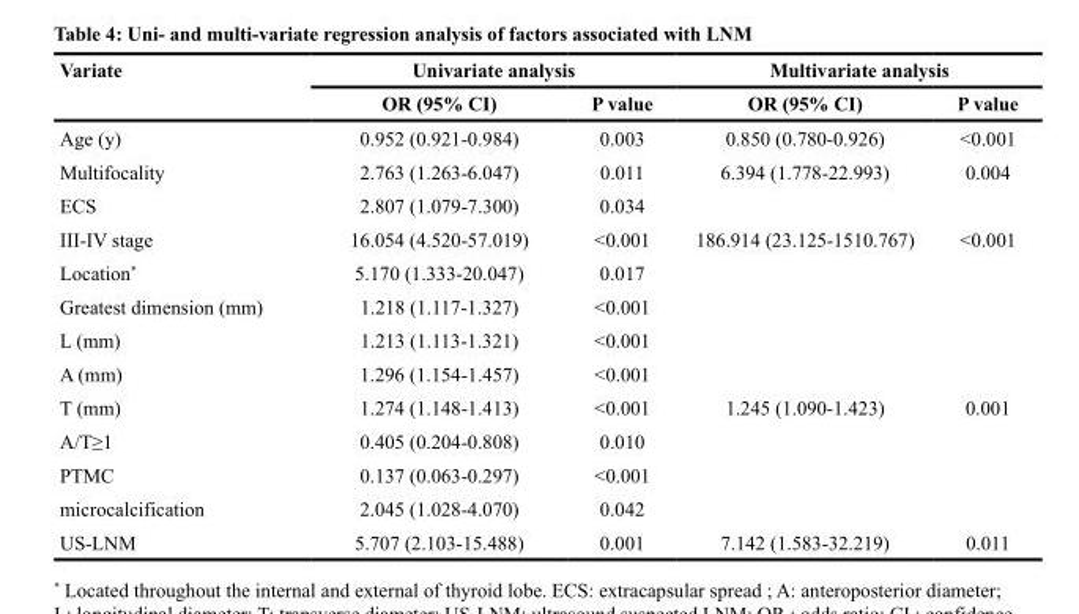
<table><thead><tr><td rowspan="2">Variate</td><td colspan="2">Univariate analysis</td><td colspan="2">Multivariate analysis</td></tr><tr><td>OR (95% CI)</td><td>P value</td><td>OR (95% CI)</td><td>P value</td></tr></thead><tbody><tr><td>Age (y)</td><td>0.952 (0.921-0.984)</td><td>0.003</td><td>0.850 (0.780-0.926)</td><td>&lt;0.001</td></tr><tr><td>Multifocality</td><td>2.763 (1.263-6.047)</td><td>0.011</td><td>6.394 (1.778-22.993)</td><td>0.004</td></tr><tr><td>ECS</td><td>2.807 (1.079-7.300)</td><td>0.034</td><td></td><td></td></tr><tr><td>III-IV stage</td><td>16.054 (4.520-57.019)</td><td>&lt;0.001</td><td>186.914 (23.125-1510.767)</td><td>&lt;0.001</td></tr><tr><td>Location*</td><td>5.170 (1.333-20.047)</td><td>0.017</td><td></td><td></td></tr><tr><td>Greatest dimension (mm)</td><td>1.218 (1.117-1.327)</td><td>&lt;0.001</td><td></td><td></td></tr><tr><td>L (mm)</td><td>1.213 (1.113-1.321)</td><td>&lt;0.001</td><td></td><td></td></tr><tr><td>A (mm)</td><td>1.296 (1.154-1.457)</td><td>&lt;0.001</td><td></td><td></td></tr><tr><td>T (mm)</td><td>1.274 (1.148-1.413)</td><td>&lt;0.001</td><td>1.245 (1.090-1.423)</td><td>0.001</td></tr><tr><td>A/T≥1</td><td>0.405 (0.204-0.808)</td><td>0.010</td><td></td><td></td></tr><tr><td>PTMC</td><td>0.137 (0.063-0.297)</td><td>&lt;0.001</td><td></td><td></td></tr><tr><td>microcalcification</td><td>2.045 (1.028-4.070)</td><td>0.042</td><td></td><td></td></tr><tr><td>US-LNM</td><td>5.707 (2.103-15.488)</td><td>0.001</td><td>7.142 (1.583-32.219)</td><td>0.011</td></tr></tbody></table>